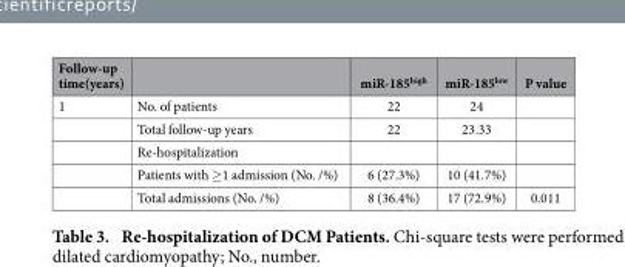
<table><thead><tr><td>Follow-up time(years)</td><td></td><td>miR-185<sup>high</sup></td><td>miR-185<sup>low</sup></td><td>P value</td></tr></thead><tbody><tr><td rowspan="5">1</td><td>No. of patients</td><td>22</td><td>24</td><td></td></tr><tr><td>Total follow-up years</td><td>22</td><td>23.33</td><td></td></tr><tr><td>Re-hospitalization</td><td></td><td></td><td></td></tr><tr><td>Patients with ≥ 1 admission (No. /%)</td><td>6 (27.3%)</td><td>10 (41.7%)</td><td></td></tr><tr><td>Total admissions (No. /%)</td><td>8 (36.4%)</td><td>17 (72.9%)</td><td>0.011</td></tr></tbody></table>